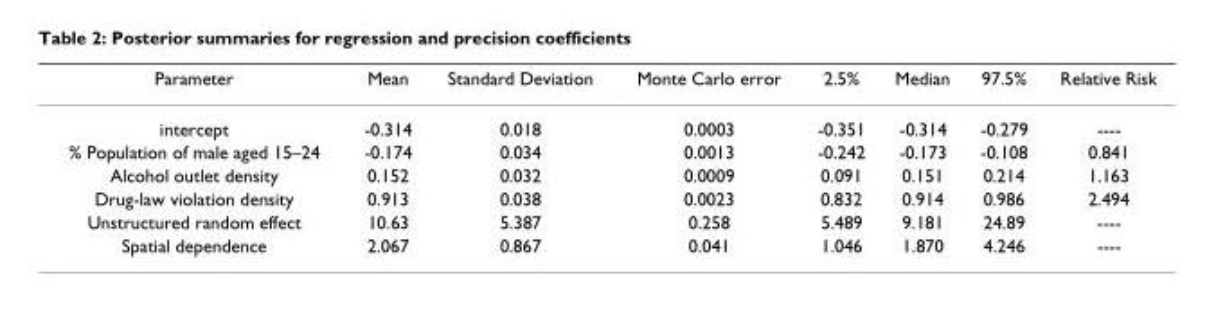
<table><thead><tr><td>Parameter</td><td>Mean</td><td>Standard Deviation</td><td>Monte Carlo error</td><td>2.5%</td><td>Median</td><td>97.5%</td><td>Relative Risk</td></tr></thead><tbody><tr><td>intercept</td><td>-0.314</td><td>0.018</td><td>0.0003</td><td>-0.351</td><td>-0.314</td><td>-0.279</td><td>----</td></tr><tr><td>% Population of male aged 15–24</td><td>-0.174</td><td>0.034</td><td>0.0013</td><td>-0.242</td><td>-0.173</td><td>-0.108</td><td>0.841</td></tr><tr><td>Alcohol outlet density</td><td>0.152</td><td>0.032</td><td>0.0009</td><td>0.091</td><td>0.151</td><td>0.214</td><td>1.163</td></tr><tr><td>Drug-law violation density</td><td>0.913</td><td>0.038</td><td>0.0023</td><td>0.832</td><td>0.914</td><td>0.986</td><td>2.494</td></tr><tr><td>Unstructured random effect</td><td>10.63</td><td>5.387</td><td>0.258</td><td>5.489</td><td>9.181</td><td>24.89</td><td>----</td></tr><tr><td>Spatial dependence</td><td>2.067</td><td>0.867</td><td>0.041</td><td>1.046</td><td>1.870</td><td>4.246</td><td>----</td></tr></tbody></table>